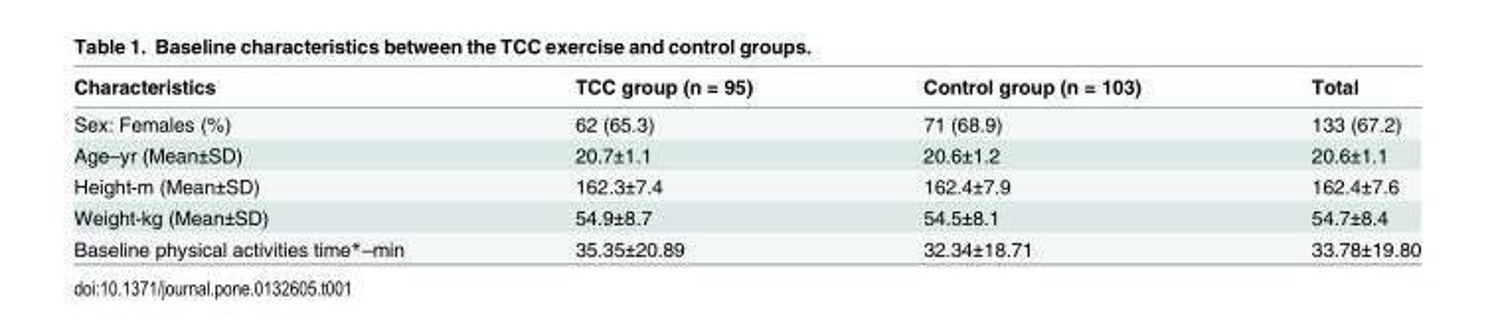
<table><thead><tr><td>Characteristics</td><td>TCC group (n = 95)</td><td>Control group (n = 103)</td><td>Total</td></tr></thead><tbody><tr><td>Sex: Females (%)</td><td>62 (65.3)</td><td>71 (68.9)</td><td>133 (67.2)</td></tr><tr><td>Age–yr (Mean±SD)</td><td>20.7±1.1</td><td>20.6±1.2</td><td>20.6±1.1</td></tr><tr><td>Height-m (Mean±SD)</td><td>162.3±7.4</td><td>162.4±7.9</td><td>162.4±7.6</td></tr><tr><td>Weight-kg (Mean±SD)</td><td>54.9±8.7</td><td>54.5±8.1</td><td>54.7±8.4</td></tr><tr><td>Baseline physical activities time*–min</td><td>35.35±20.89</td><td>32.34±18.71</td><td>33.78±19.80</td></tr></tbody></table>